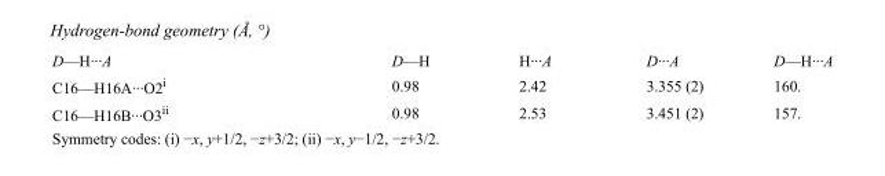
<table><tbody><tr><td>D—H···A</td><td>D—H</td><td>H···A</td><td>D···A</td><td>D—H···A</td></tr><tr><td>C16—H16A···O2<sup>i</sup></td><td>0.98</td><td>2.42</td><td>3.355 (2)</td><td>160.</td></tr><tr><td>C16—H16B···O3<sup>ii</sup></td><td>0.98</td><td>2.53</td><td>3.451 (2)</td><td>157.</td></tr></tbody></table>